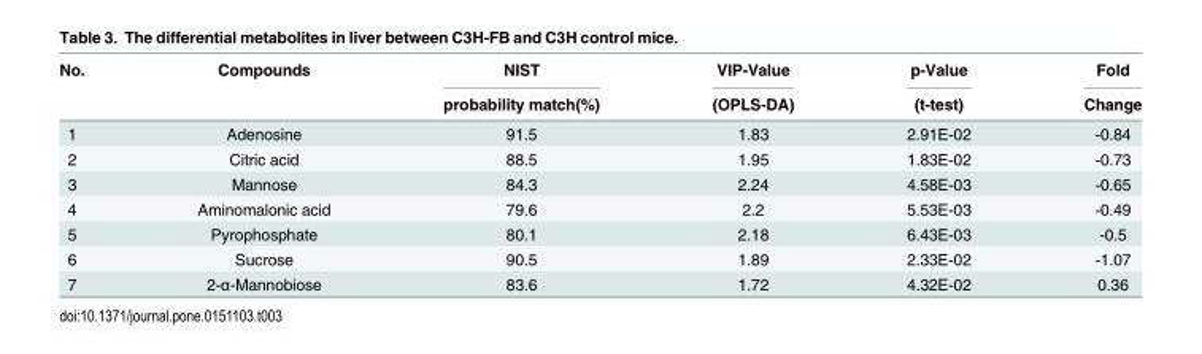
<table><thead><tr><td rowspan="2">No.</td><td rowspan="2">Compounds</td><td rowspan="2">NIST probability match(%)</td><td rowspan="2">VIP-Value (OPLS-DA)</td><td rowspan="2">p-Value (t-test)</td><td rowspan="2">Fold Change</td></tr><tr></tr></thead><tbody><tr><td>1</td><td>Adenosine</td><td>91.5</td><td>1.83</td><td>2.91E-02</td><td>-0.84</td></tr><tr><td>2</td><td>Citric acid</td><td>88.5</td><td>1.95</td><td>1.83E-02</td><td>-0.73</td></tr><tr><td>3</td><td>Mannose</td><td>84.3</td><td>2.24</td><td>4.58E-03</td><td>-0.65</td></tr><tr><td>4</td><td>Aminomalonic acid</td><td>79.6</td><td>2.2</td><td>5.53E-03</td><td>-0.49</td></tr><tr><td>5</td><td>Pyrophosphate</td><td>80.1</td><td>2.18</td><td>6.43E-03</td><td>-0.5</td></tr><tr><td>6</td><td>Sucrose</td><td>90.5</td><td>1.89</td><td>2.33E-02</td><td>-1.07</td></tr><tr><td>7</td><td>2-α-Mannobiose</td><td>83.6</td><td>1.72</td><td>4.32E-02</td><td>0.36</td></tr></tbody></table>